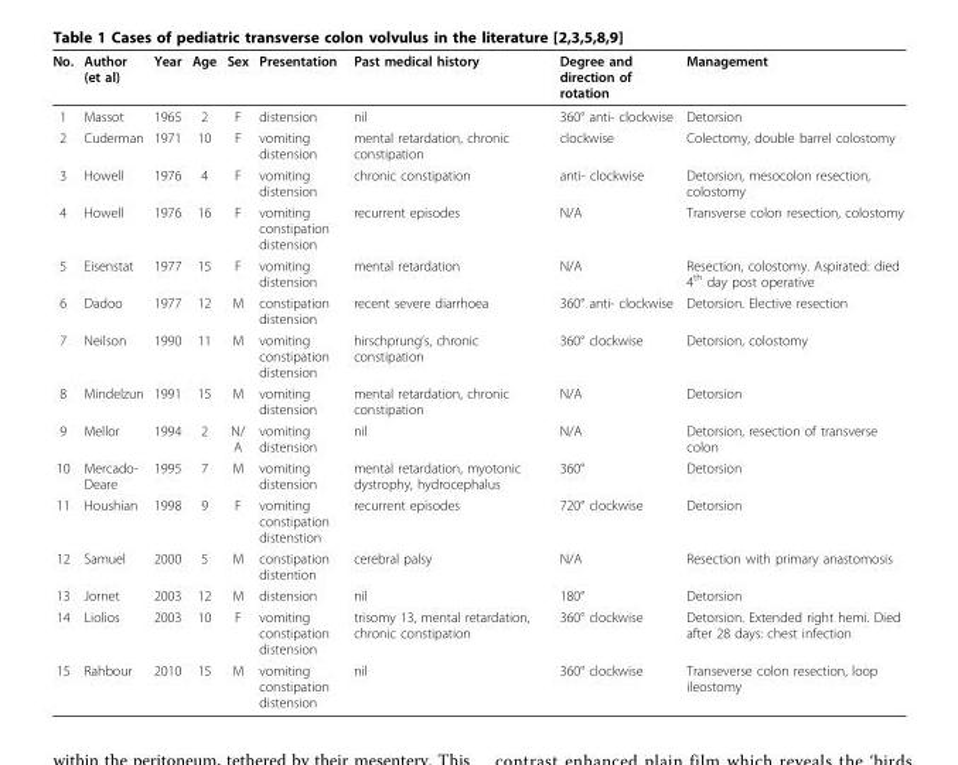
<table><thead><tr><td>No.</td><td>Author (et al)</td><td>Year</td><td>Age</td><td>Sex</td><td>Presentation</td><td>Past medical history</td><td>Degree and direction of rotation</td><td>Management</td></tr></thead><tbody><tr><td>1</td><td>Massot</td><td>1965</td><td>2</td><td>F</td><td>distension</td><td>nil</td><td>360° anti- clockwise</td><td>Detorsion</td></tr><tr><td>2</td><td>Cuderman</td><td>1971</td><td>10</td><td>F</td><td>vomiting distension</td><td>mental retardation, chronic constipation</td><td>clockwise</td><td>Colectomy, double barrel colostomy</td></tr><tr><td>3</td><td>Howell</td><td>1976</td><td>4</td><td>F</td><td>vomiting distension</td><td>chronic constipation</td><td>anti- clockwise</td><td>Detorsion, mesocolon resection, colostomy</td></tr><tr><td>4</td><td>Howell</td><td>1976</td><td>16</td><td>F</td><td>vomiting constipation distension</td><td>recurrent episodes</td><td>N/A</td><td>Transverse colon resection, colostomy</td></tr><tr><td>5</td><td>Eisenstat</td><td>1977</td><td>15</td><td>F</td><td>vomiting distension</td><td>mental retardation</td><td>N/A</td><td>Resection, colostomy. Aspirated: died 4<sup>th</sup> day post operative</td></tr><tr><td>6</td><td>Dadoo</td><td>1977</td><td>12</td><td>M</td><td>constipation distension</td><td>recent severe diarrhoea</td><td>360° anti- clockwise</td><td>Detorsion. Elective resection</td></tr><tr><td>7</td><td>Neilson</td><td>1990</td><td>11</td><td>M</td><td>vomiting constipation distension</td><td>hirschprung’s, chronic constipation</td><td>360° clockwise</td><td>Detorsion, colostomy</td></tr><tr><td>8</td><td>Mindelzun</td><td>1991</td><td>15</td><td>M</td><td>vomiting distension</td><td>mental retardation, chronic constipation</td><td>N/A</td><td>Detorsion</td></tr><tr><td>9</td><td>Mellor</td><td>1994</td><td>2</td><td>N/ A</td><td>vomiting distension</td><td>nil</td><td>N/A</td><td>Detorsion, resection of transverse colon</td></tr><tr><td>10</td><td>Mercado- Deare</td><td>1995</td><td>7</td><td>M</td><td>vomiting distension</td><td>mental retardation, myotonic dystrophy, hydrocephalus</td><td>360°</td><td>Detorsion</td></tr><tr><td>11</td><td>Houshian</td><td>1998</td><td>9</td><td>F</td><td>vomiting constipation distenstion</td><td>recurrent episodes</td><td>720° clockwise</td><td>Detorsion</td></tr><tr><td>12</td><td>Samuel</td><td>2000</td><td>5</td><td>M</td><td>constipation distention</td><td>cerebral palsy</td><td>N/A</td><td>Resection with primary anastomosis</td></tr><tr><td>13</td><td>Jornet</td><td>2003</td><td>12</td><td>M</td><td>distension</td><td>nil</td><td>180°</td><td>Detorsion</td></tr><tr><td>14</td><td>Liolios</td><td>2003</td><td>10</td><td>F</td><td>vomiting constipation distension</td><td>trisomy 13, mental retardation, chronic constipation</td><td>360° clockwise</td><td>Detorsion. Extended right hemi. Died after 28 days: chest infection</td></tr><tr><td>15</td><td>Rahbour</td><td>2010</td><td>15</td><td>M</td><td>vomiting constipation distension</td><td>nil</td><td>360° clockwise</td><td>Transeverse colon resection, loop ileostomy</td></tr></tbody></table>